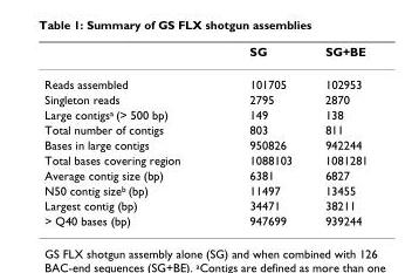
<table><thead><tr><td></td><td>SG</td><td>SG+BE</td></tr></thead><tbody><tr><td>Reads assembled</td><td>101705</td><td>102953</td></tr><tr><td>Singleton reads</td><td>2795</td><td>2870</td></tr><tr><td>Large contigs<sup>a</sup> (&gt; 500 bp)</td><td>149</td><td>138</td></tr><tr><td>Total number of contigs</td><td>803</td><td>811</td></tr><tr><td>Bases in large contigs</td><td>950826</td><td>942244</td></tr><tr><td>Total bases covering region</td><td>1088103</td><td>1081281</td></tr><tr><td>Average contig size (bp)</td><td>6381</td><td>6827</td></tr><tr><td>N50 contig size<sup>b</sup> (bp)</td><td>11497</td><td>13455</td></tr><tr><td>Largest contig (bp)</td><td>34471</td><td>38211</td></tr><tr><td>&gt; Q40 bases (bp)</td><td>947699</td><td>939244</td></tr></tbody></table>